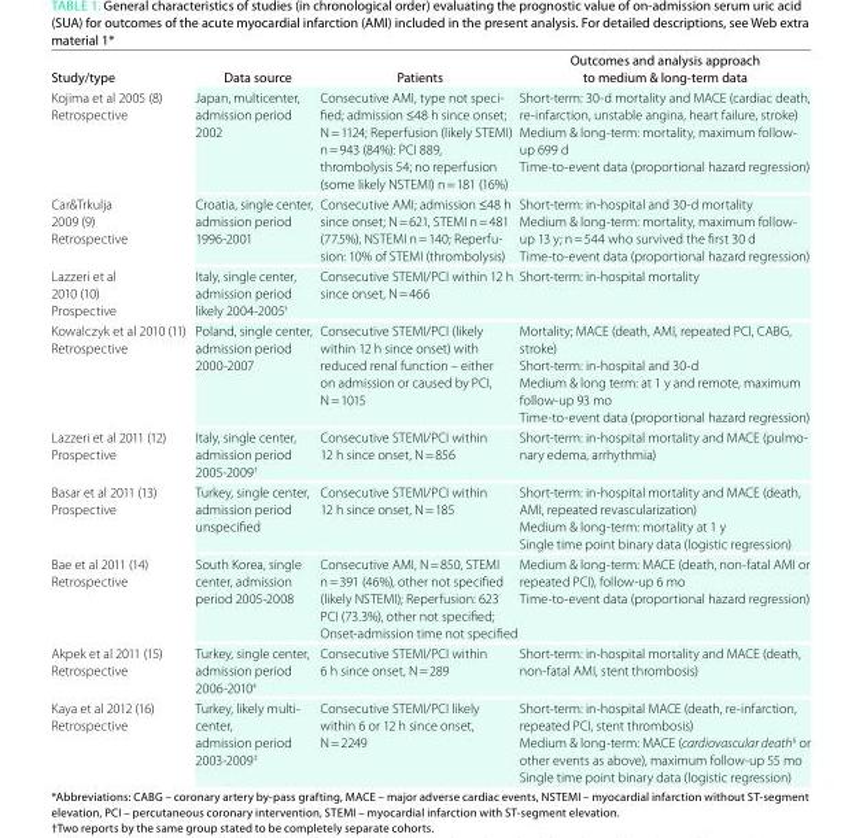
<table><thead><tr><td>Study/type</td><td>data source</td><td>Patients</td><td>outcomes and analysis approach to medium &amp; long-term data</td></tr></thead><tbody><tr><td>Kojima et al 2005 (8) Retrospective</td><td>Japan, multicenter, admission period 2002</td><td>Consecutive AMI, type not speci- fied; admission ≤48 h since onset; N = 1124; Reperfusion (likely STEMI) n = 943 (84%): PCI 889, thrombolysis 54; no reperfusion (some likely NSTEMI) n = 181 (16%)</td><td>Short-term: 30-d mortality and MACE (cardiac death, re-infarction, unstable angina, heart failure, stroke) Medium &amp; long-term: mortality, maximum follow- up 699 d Time-to-event data (proportional hazard regression)</td></tr><tr><td>Car&amp;Trkulja 2009 (9) Retrospective</td><td>Croatia, single center, admission period 1996-2001</td><td>Consecutive AMI; admission ≤48 h since onset; N = 621, STEMI n = 481 (77.5%), NSTEMI n = 140; Reperfu- sion: 10% of STEMI (thrombolysis)</td><td>Short-term: in-hospital and 30-d mortality Medium &amp; long-term: mortality, maximum follow- up 13 y; n = 544 who survived the first 30 d Time-to-event data (proportional hazard regression)</td></tr><tr><td>Lazzeri et al 2010 (10) Prospective</td><td>Italy, single center, admission period likely 2004-2005<sup>†</sup></td><td>Consecutive STEMI/PCI within 12 h since onset, N = 466</td><td>Short-term: in-hospital mortality</td></tr><tr><td>Kowalczyk et al 2010 (11) Retrospective</td><td>Poland, single center, admission period 2000-2007</td><td>Consecutive STEMI/PCI (likely within 12 h since onset) with reduced renal function – either on admission or caused by PCI, N = 1015</td><td>Mortality; MACE (death, AMI, repeated PCI, CABG, stroke) Short-term: in-hospital and 30-d Medium &amp; long term: at 1 y and remote, maximum follow-up 93 mo Time-to-event data (proportional hazard regression)</td></tr><tr><td>Lazzeri et al 2011 (12) Prospective</td><td>Italy, single center, admission period 2005-2009<sup>†</sup></td><td>Consecutive STEMI/PCI within 12 h since onset, N = 856</td><td>Short-term: in-hospital mortality and MACE (pulmo- nary edema, arrhythmia)</td></tr><tr><td>Basar et al 2011 (13) Prospective</td><td>Turkey, single center, admission period unspecified</td><td>Consecutive STEMI/PCI within 12 h since onset, N = 185</td><td>Short-term: in-hospital mortality and MACE (death, AMI, repeated revascularization) Medium &amp; long-term: mortality at 1 y Single time point binary data (logistic regression)</td></tr><tr><td>Bae et al 2011 (14) Retrospective</td><td>South Korea, single center, admission period 2005-2008</td><td>Consecutive AMI, N = 850, STEMI n = 391 (46%), other not specified (likely NSTEMI); Reperfusion: 623 PCI (73.3%), other not specified; Onset-admission time not specified</td><td>Medium &amp; long-term: MACE (death, non-fatal AMI or repeated PCI), follow-up 6 mo Time-to-event data (proportional hazard regression)</td></tr><tr><td>Akpek et al 2011 (15) Retrospective</td><td>Turkey, single center, admission period 2006-2010<sup>‡</sup></td><td>Consecutive STEMI/PCI within 6 h since onset, N = 289</td><td>Short-term: in-hospital mortality and MACE (death, non-fatal AMI, stent thrombosis)</td></tr><tr><td>Kaya et al 2012 (16) Retrospective</td><td>Turkey, likely multi- center, admission period 2003-2009‡</td><td>Consecutive STEMI/PCI likely within 6 or 12 h since onset, N = 2249</td><td>Short-term: in-hospital MACE (death, re-infarction, repeated PCI, stent thrombosis) Medium &amp; long-term: MACE (cardiovascular death<sup>§</sup> or other events as above), maximum follow-up 55 mo Single time point binary data (logistic regression)</td></tr></tbody></table>